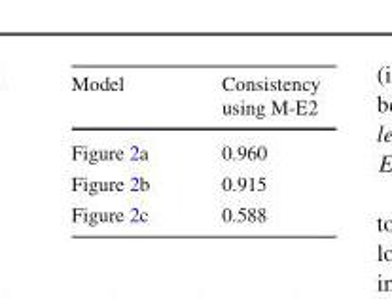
<table><thead><tr><td>Model</td><td>Consistency using M-E2</td></tr></thead><tbody><tr><td>Figure 2a</td><td>0.960</td></tr><tr><td>Figure 2b</td><td>0.915</td></tr><tr><td>Figure 2c</td><td>0.588</td></tr></tbody></table>